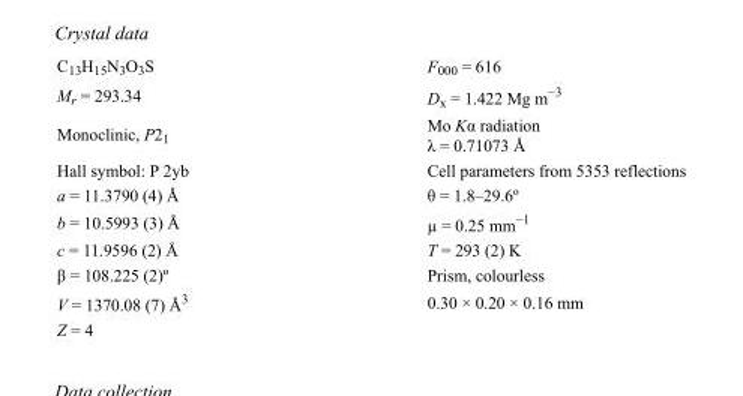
<table><tbody><tr><td>C<sub>13</sub>H<sub>15</sub>N<sub>3</sub>O<sub>3</sub>S</td><td>F000 = 616</td></tr><tr><td>M<sub>r</sub> = 293.34</td><td>D<sub>x</sub> = 1.422 Mg m<sup>−3</sup></td></tr><tr><td>Monoclinic, P2<sub>1</sub></td><td>Mo Kα radiation λ = 0.71073 Å</td></tr><tr><td>Hall symbol: P 2yb</td><td>Cell parameters from 5353 reflections</td></tr><tr><td>a = 11.3790 (4) Å</td><td>θ = 1.8–29.6º</td></tr><tr><td>b = 10.5993 (3) Å</td><td>µ = 0.25 mm<sup>−1</sup></td></tr><tr><td>c = 11.9596 (2) Å</td><td>T = 293 (2) K</td></tr><tr><td>β = 108.225 (2)º</td><td>Prism, colourless</td></tr><tr><td>V = 1370.08 (7) Å<sup>3</sup></td><td>0.30 × 0.20 × 0.16 mm</td></tr><tr><td>Z = 4</td><td></td></tr></tbody></table>